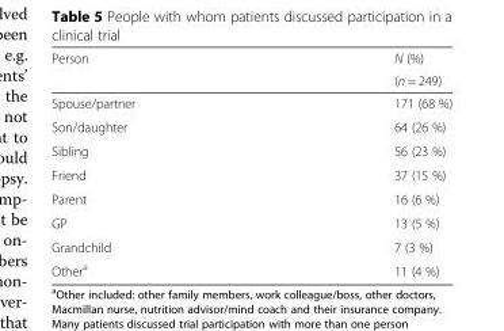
<table><thead><tr><td rowspan="2">Person</td><td rowspan="2">N (%) (n = 249)</td></tr><tr></tr></thead><tbody><tr><td>Spouse/partner</td><td>171 (68 %)</td></tr><tr><td>Son/daughter</td><td>64 (26 %)</td></tr><tr><td>Sibling</td><td>56 (23 %)</td></tr><tr><td>Friend</td><td>37 (15 %)</td></tr><tr><td>Parent</td><td>16 (6 %)</td></tr><tr><td>GP</td><td>13 (5 %)</td></tr><tr><td>Grandchild</td><td>7 (3 %)</td></tr><tr><td>Other<sup>a</sup></td><td>11 (4 %)</td></tr></tbody></table>